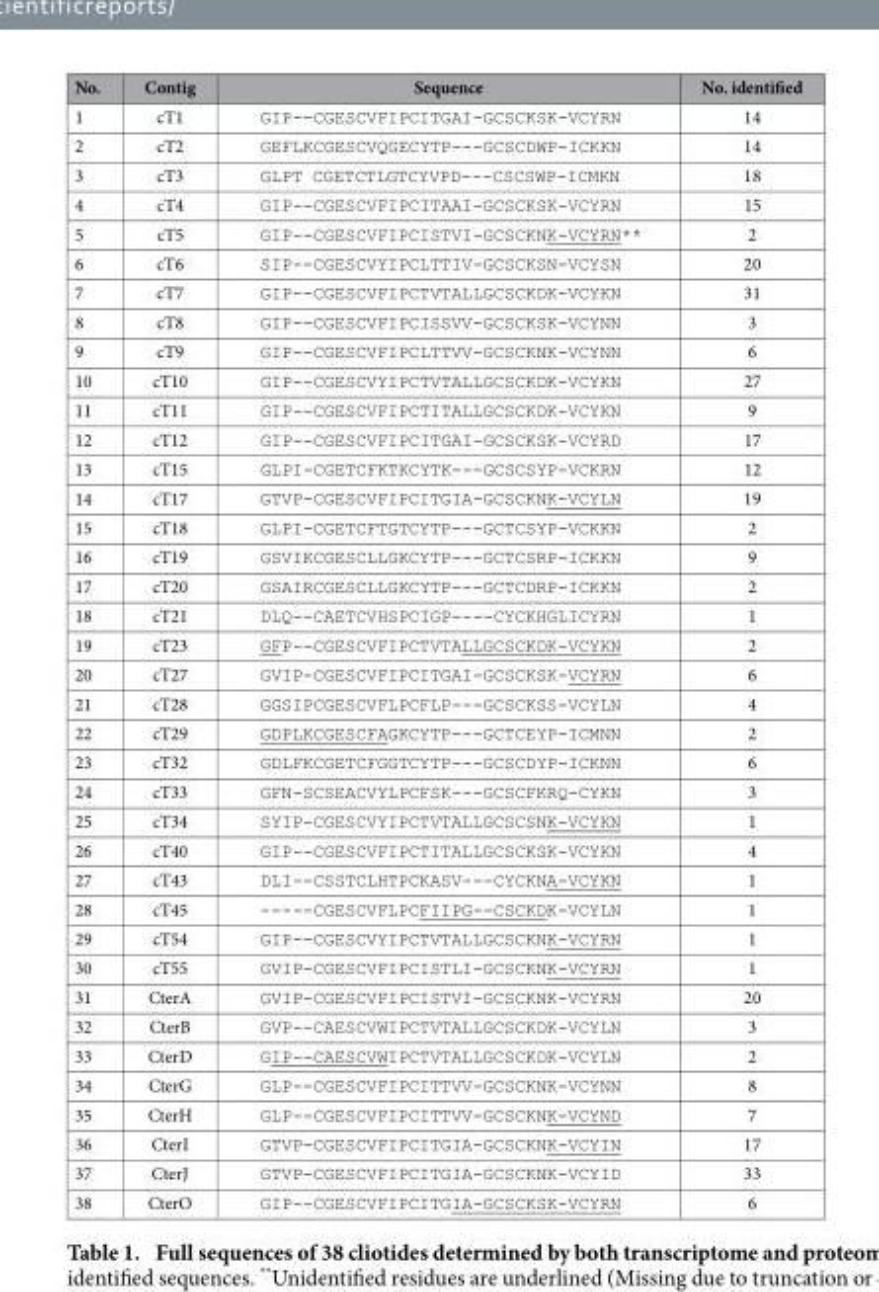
<table><thead><tr><td>No.</td><td>Contig</td><td>Sequence</td><td>No. identified</td></tr></thead><tbody><tr><td>1</td><td>cT1</td><td>GIP--CGESCVFIPCITGAI-GCSCKSK-VCYRN</td><td>14</td></tr><tr><td>2</td><td>cT2</td><td>GEFLKCGESCVQGECYTP---GCSCDWP-ICKKN</td><td>14</td></tr><tr><td>3</td><td>cT3</td><td>GLPT CGETCTLGTCYVPD---CSCSWP-ICMKN</td><td>18</td></tr><tr><td>4</td><td>cT4</td><td>GIP--CGESCVFIPCITAAI-GCSCKSK-VCYRN</td><td>15</td></tr><tr><td>5</td><td>cT5</td><td>GIP--CGESCVFIPCISTVI-GCSCKNK-VCYRN**</td><td>2</td></tr><tr><td>6</td><td>cT6</td><td>SIP--CGESCVYIPCLTTIV-GCSCKSN-VCYSN</td><td>20</td></tr><tr><td>7</td><td>cT7</td><td>GIP--CGESCVFIPCTVTALLGCSCKDK-VCYKN</td><td>31</td></tr><tr><td>8</td><td>cT8</td><td>GIP--CGESCVFIPCISSVV-GCSCKSK-VCYNN</td><td>3</td></tr><tr><td>9</td><td>cT9</td><td>GIP--CGESCVFIPCLTTVV-GCSCKNK-VCYNN</td><td>6</td></tr><tr><td>10</td><td>cT10</td><td>GIP--CGESCVYIPCTVTALLGCSCKDK-VCYKN</td><td>27</td></tr><tr><td>11</td><td>cT11</td><td>GIP--CGESCVFIPCTITALLGCSCKDK-VCYKN</td><td>9</td></tr><tr><td>12</td><td>cT12</td><td>GIP--CGESCVFIPCITGAI-GCSCKSK-VCYRD</td><td>17</td></tr><tr><td>13</td><td>cT15</td><td>GLPI-CGETCFKTKCYTK---GCSCSYP-VCKRN</td><td>12</td></tr><tr><td>14</td><td>cT17</td><td>GTVP-CGESCVFIPCITGIA-GCSCKNK-VCYLN</td><td>19</td></tr><tr><td>15</td><td>cT18</td><td>GLPI-CGETCFTGTCYTP---GCTCSYP-VCKKN</td><td>2</td></tr><tr><td>16</td><td>cT19</td><td>GSVIKCGESCLLGKCYTP---GCTCSRP-ICKKN</td><td>9</td></tr><tr><td>17</td><td>cT20</td><td>GSAIRCGESCLLGKCYTP---GCTCDRP-ICKKN</td><td>2</td></tr><tr><td>18</td><td>cT21</td><td>DLQ--CAETCVHSPCIGP----CYCKHGLICYRN</td><td>1</td></tr><tr><td>19</td><td>cT23</td><td>GFP--CGESCVFIPCTVTALLGCSCKDK-VCYKN</td><td>2</td></tr><tr><td>20</td><td>cT27</td><td>GVIP-CGESCVFIPCITGAI-GCSCKSK-VCYRN</td><td>6</td></tr><tr><td>21</td><td>cT28</td><td>GGSIPCGESCVFLPCFLP---GCSCKSS-VCYLN</td><td>4</td></tr><tr><td>22</td><td>cT29</td><td>GDPLKCGESCFAGKCYTP---GCTCEYP-ICMNN</td><td>2</td></tr><tr><td>23</td><td>cT32</td><td>GDLFKCGETCFGGTCYTP---GCSCDYP-ICKNN</td><td>6</td></tr><tr><td>24</td><td>cT33</td><td>GFN-SCSEACVYLPCFSK---GCSCFKRQ-CYKN</td><td>3</td></tr><tr><td>25</td><td>cT34</td><td>SYIP-CGESCVYIPCTVTALLGCSCSNK-VCYKN</td><td>1</td></tr><tr><td>26</td><td>cT40</td><td>GIP--CGESCVFIPCTITALLGCSCKSK-VCYKN</td><td>4</td></tr><tr><td>27</td><td>cT43</td><td>DLI--CSSTCLHTPCKASV---CYCKNA-VCYKN</td><td>1</td></tr><tr><td>28</td><td>cT45</td><td>-----CGESCVFLPCFIIPG--CSCKDK-VCYLN</td><td>1</td></tr><tr><td>29</td><td>cT54</td><td>GIP--CGESCVYIPCTVTALLGCSCKNK-VCYRN</td><td>1</td></tr><tr><td>30</td><td>cT55</td><td>GVIP-CGESCVFIPCISTLI-GCSCKNK-VCYRN</td><td>1</td></tr><tr><td>31</td><td>CterA</td><td>GVIP-CGESCVFIPCISTVI-GCSCKNK-VCYRN</td><td>20</td></tr><tr><td>32</td><td>CterB</td><td>GVP--CAESCVWIPCTVTALLGCSCKDK-VCYLN</td><td>3</td></tr><tr><td>33</td><td>CterD</td><td>GIP--CAESCVWIPCTVTALLGCSCKDK-VCYLN</td><td>2</td></tr><tr><td>34</td><td>CterG</td><td>GLP--CGESCVFIPCITTVV-GCSCKNK-VCYNN</td><td>8</td></tr><tr><td>35</td><td>CterH</td><td>GLP--CGESCVFIPCITTVV-GCSCKNK-VCYND</td><td>7</td></tr><tr><td>36</td><td>CterI</td><td>GTVP-CGESCVFIPCITGIA-GCSCKNK-VCYIN</td><td>17</td></tr><tr><td>37</td><td>CterJ</td><td>GTVP-CGESCVFIPCITGIA-GCSCKNK-VCYID</td><td>33</td></tr><tr><td>38</td><td>CterO</td><td>GIP--CGESCVFIPCITGIA-GCSCKSK-VCYRN</td><td>6</td></tr></tbody></table>